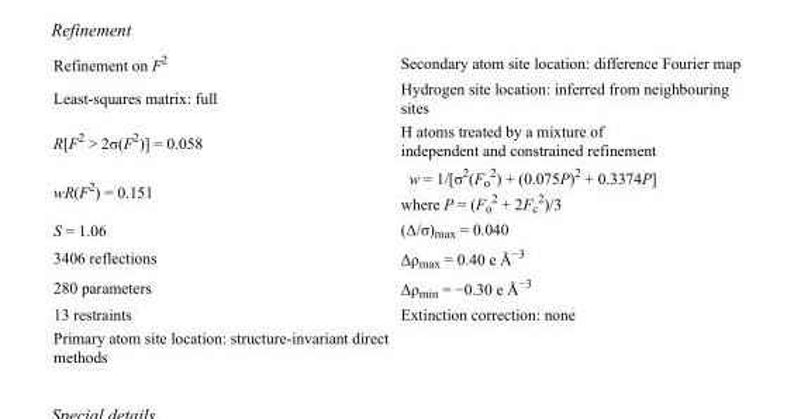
<table><tbody><tr><td>Refinement on F<sup>2</sup></td><td>Secondary atom site location: difference Fourier map</td></tr><tr><td>Least-squares matrix: full</td><td>Hydrogen site location: inferred from neighbouring sites</td></tr><tr><td>R[F<sup>2</sup> &gt; 2σ(F<sup>2</sup>)] = 0.058</td><td>H atoms treated by a mixture of independent and constrained refinement</td></tr><tr><td>wR(F<sup>2</sup>) = 0.151</td><td>w = 1/[σ<sup>2</sup>(F<sub>o</sub> <sup>2</sup>) + (0.075P)<sup>2</sup> + 0.3374P] where P = (F<sub>o</sub> <sup>2</sup> + 2F<sub>c</sub> <sup>2</sup>)/3</td></tr><tr><td>S = 1.06</td><td>(Δ/σ)<sub>max</sub> = 0.040</td></tr><tr><td>3406 reflections</td><td>Δρ<sub>max</sub> = 0.40 e Å<sup>−3</sup></td></tr><tr><td>280 parameters</td><td>Δρ<sub>min</sub> = −0.30 e Å<sup>−3</sup></td></tr><tr><td>13 restraints</td><td>Extinction correction: none</td></tr><tr><td>Primary atom site location: structure-invariant direct methods</td><td></td></tr></tbody></table>